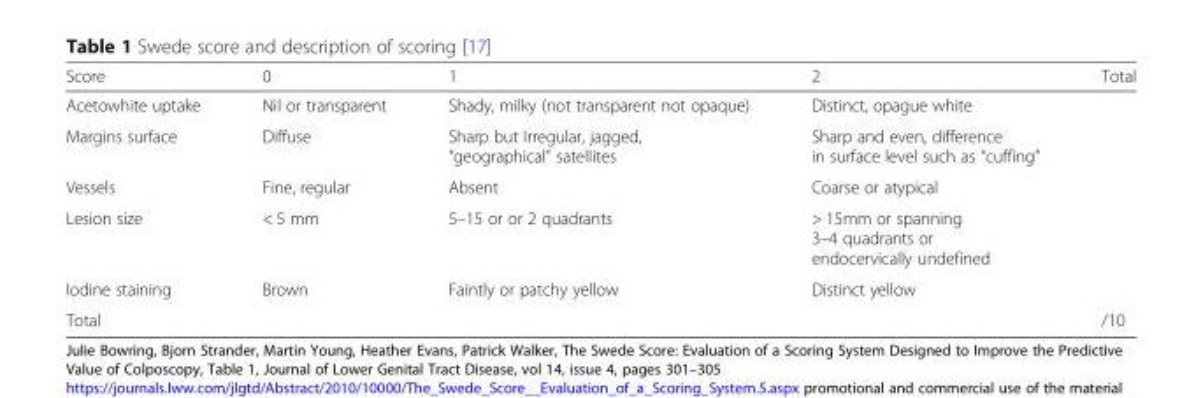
<table><thead><tr><td>Score</td><td>0</td><td>1</td><td>2</td><td>Total</td></tr></thead><tbody><tr><td>Acetowhite uptake</td><td>Nil or transparent</td><td>Shady, milky (not transparent not opaque)</td><td>Distinct, opague white</td><td></td></tr><tr><td>Margins surface</td><td>Diffuse</td><td>Sharp but Irregular, jagged, “geographical” satellites</td><td>Sharp and even, difference in surface level such as “cuffing”</td><td></td></tr><tr><td>Vessels</td><td>Fine, regular</td><td>Absent</td><td>Coarse or atypical</td><td></td></tr><tr><td>Lesion size</td><td>&lt; 5 mm</td><td>5–15 or or 2 quadrants</td><td>&gt; 15mm or spanning 3–4 quadrants or endocervically undefined</td><td></td></tr><tr><td>Iodine staining</td><td>Brown</td><td>Faintly or patchy yellow</td><td>Distinct yellow</td><td></td></tr><tr><td>Total</td><td></td><td></td><td></td><td>/10</td></tr></tbody></table>